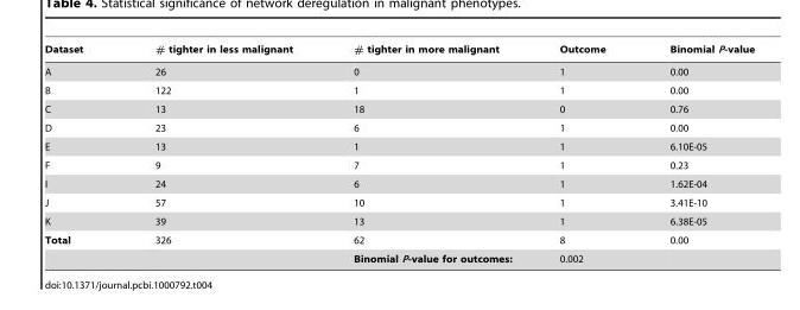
<table><thead><tr><td>Dataset</td><td># tighter in less malignant</td><td># tighter in more malignant</td><td>Outcome</td><td>Binomial P-value</td></tr></thead><tbody><tr><td>A</td><td>26</td><td>0</td><td>1</td><td>0.00</td></tr><tr><td>B</td><td>122</td><td>1</td><td>1</td><td>0.00</td></tr><tr><td>C</td><td>13</td><td>18</td><td>0</td><td>0.76</td></tr><tr><td>D</td><td>23</td><td>6</td><td>1</td><td>0.00</td></tr><tr><td>E</td><td>13</td><td>1</td><td>1</td><td>6.10E-05</td></tr><tr><td>F</td><td>9</td><td>7</td><td>1</td><td>0.23</td></tr><tr><td>I</td><td>24</td><td>6</td><td>1</td><td>1.62E-04</td></tr><tr><td>J</td><td>57</td><td>10</td><td>1</td><td>3.41E-10</td></tr><tr><td>K</td><td>39</td><td>13</td><td>1</td><td>6.38E-05</td></tr><tr><td rowspan="2">Total</td><td>326</td><td>62</td><td>8</td><td>0.00</td></tr><tr><td></td><td>Binomial P-value for outcomes:</td><td>0.002</td><td></td></tr></tbody></table>